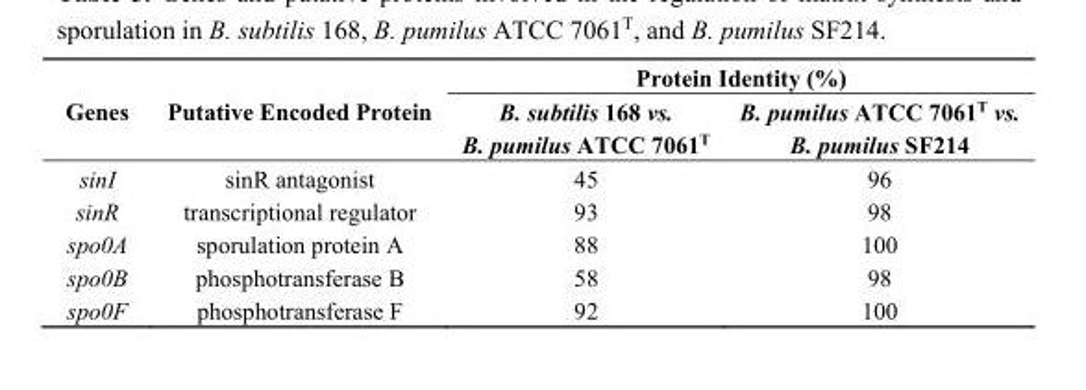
<table><thead><tr><td rowspan="2">Genes</td><td rowspan="2">Putative Encoded Protein</td><td colspan="2">Protein Identity (%)</td></tr><tr><td>B. subtilis 168 vs. B. pumilus ATCC 7061<sup>T</sup></td><td>B. pumilus ATCC 7061<sup>T</sup> vs. B. pumilus SF214</td></tr></thead><tbody><tr><td>sinI</td><td>sinR antagonist</td><td>45</td><td>96</td></tr><tr><td>sinR</td><td>transcriptional regulator</td><td>93</td><td>98</td></tr><tr><td>spo0A</td><td>sporulation protein A</td><td>88</td><td>100</td></tr><tr><td>spo0B</td><td>phosphotransferase B</td><td>58</td><td>98</td></tr><tr><td>spo0F</td><td>phosphotransferase F</td><td>92</td><td>100</td></tr></tbody></table>